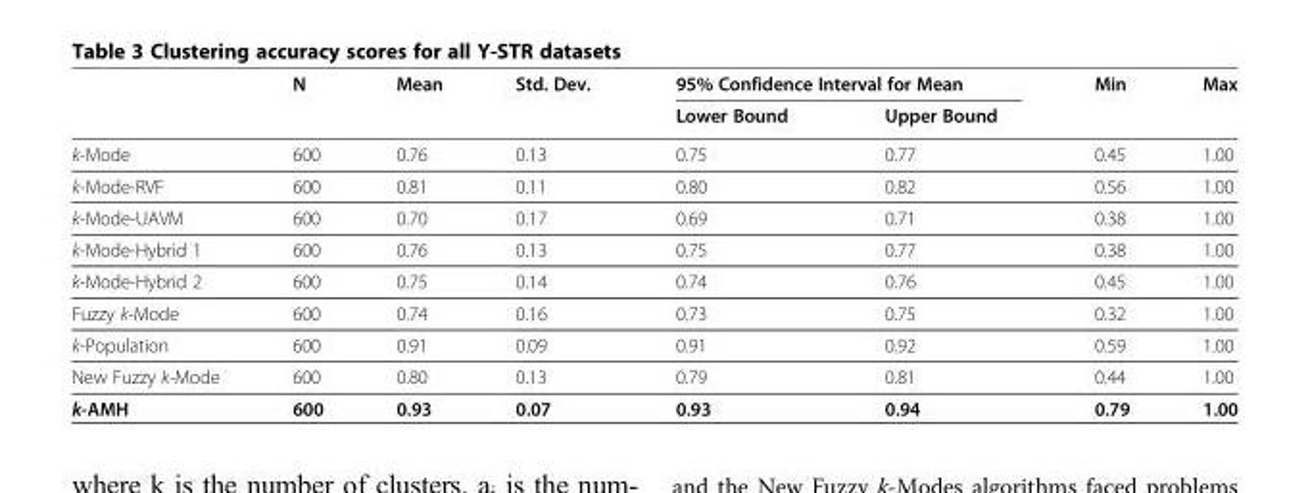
<table><thead><tr><td rowspan="2"></td><td rowspan="2">N</td><td rowspan="2">Mean</td><td rowspan="2">Std. Dev.</td><td colspan="2">95% Confidence Interval for Mean</td><td rowspan="2">Min</td><td rowspan="2">Max</td></tr><tr><td>Lower Bound</td><td>Upper Bound</td></tr></thead><tbody><tr><td>k-Mode</td><td>600</td><td>0.76</td><td>0.13</td><td>0.75</td><td>0.77</td><td>0.45</td><td>1.00</td></tr><tr><td>k-Mode-RVF</td><td>600</td><td>0.81</td><td>0.11</td><td>0.80</td><td>0.82</td><td>0.56</td><td>1.00</td></tr><tr><td>k-Mode-UAVM</td><td>600</td><td>0.70</td><td>0.17</td><td>0.69</td><td>0.71</td><td>0.38</td><td>1.00</td></tr><tr><td>k-Mode-Hybrid 1</td><td>600</td><td>0.76</td><td>0.13</td><td>0.75</td><td>0.77</td><td>0.38</td><td>1.00</td></tr><tr><td>k-Mode-Hybrid 2</td><td>600</td><td>0.75</td><td>0.14</td><td>0.74</td><td>0.76</td><td>0.45</td><td>1.00</td></tr><tr><td>Fuzzy k-Mode</td><td>600</td><td>0.74</td><td>0.16</td><td>0.73</td><td>0.75</td><td>0.32</td><td>1.00</td></tr><tr><td>k-Population</td><td>600</td><td>0.91</td><td>0.09</td><td>0.91</td><td>0.92</td><td>0.59</td><td>1.00</td></tr><tr><td>New Fuzzy k-Mode</td><td>600</td><td>0.80</td><td>0.13</td><td>0.79</td><td>0.81</td><td>0.44</td><td>1.00</td></tr><tr><td>k-AMH</td><td>600</td><td>0.93</td><td>0.07</td><td>0.93</td><td>0.94</td><td>0.79</td><td>1.00</td></tr></tbody></table>